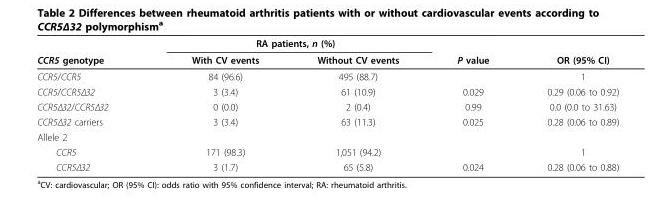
<table><thead><tr><td rowspan="2">CCR5 genotype</td><td colspan="2">RA patients, n (%)</td><td rowspan="2">P value</td><td rowspan="2">OR (95% CI)</td></tr><tr><td>With CV events</td><td>Without CV events</td></tr></thead><tbody><tr><td>CCR5/CCR5</td><td>84 (96.6)</td><td>495 (88.7)</td><td></td><td>1</td></tr><tr><td>CCR5/CCR5Δ32</td><td>3 (3.4)</td><td>61 (10.9)</td><td>0.029</td><td>0.29 (0.06 to 0.92)</td></tr><tr><td>CCR5Δ32/CCR5Δ32</td><td>0 (0.0)</td><td>2 (0.4)</td><td>0.99</td><td>0.0 (0.0 to 31.63)</td></tr><tr><td>CCR5Δ32 carriers</td><td>3 (3.4)</td><td>63 (11.3)</td><td>0.025</td><td>0.28 (0.06 to 0.89)</td></tr><tr><td colspan="5">Allele 2</td></tr><tr><td>CCR5</td><td>171 (98.3)</td><td>1,051 (94.2)</td><td></td><td>1</td></tr><tr><td>CCR5Δ32</td><td>3 (1.7)</td><td>65 (5.8)</td><td>0.024</td><td>0.28 (0.06 to 0.88)</td></tr></tbody></table>